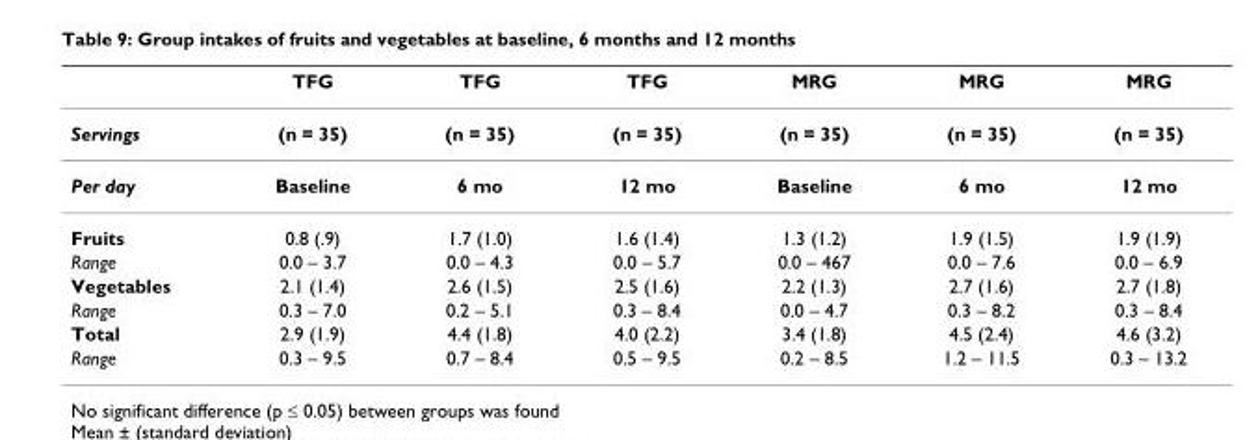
<table><thead><tr><td></td><td>TFG</td><td>TFG</td><td>TFG</td><td>MRG</td><td>MRG</td><td>MRG</td></tr></thead><tbody><tr><td>Servings</td><td>(n = 35)</td><td>(n = 35)</td><td>(n = 35)</td><td>(n = 35)</td><td>(n = 35)</td><td>(n = 35)</td></tr><tr><td>Per day</td><td>Baseline</td><td>6 mo</td><td>12 mo</td><td>Baseline</td><td>6 mo</td><td>12 mo</td></tr><tr><td>Fruits</td><td>0.8 (.9)</td><td>1.7 (1.0)</td><td>1.6 (1.4)</td><td>1.3 (1.2)</td><td>1.9 (1.5)</td><td>1.9 (1.9)</td></tr><tr><td>Range</td><td>0.0 – 3.7</td><td>0.0 – 4.3</td><td>0.0 – 5.7</td><td>0.0 – 467</td><td>0.0 – 7.6</td><td>0.0 – 6.9</td></tr><tr><td>Vegetables</td><td>2.1 (1.4)</td><td>2.6 (1.5)</td><td>2.5 (1.6)</td><td>2.2 (1.3)</td><td>2.7 (1.6)</td><td>2.7 (1.8)</td></tr><tr><td>Range</td><td>0.3 – 7.0</td><td>0.2 – 5.1</td><td>0.3 – 8.4</td><td>0.0 – 4.7</td><td>0.3 – 8.2</td><td>0.3 – 8.4</td></tr><tr><td>Total</td><td>2.9 (1.9)</td><td>4.4 (1.8)</td><td>4.0 (2.2)</td><td>3.4 (1.8)</td><td>4.5 (2.4)</td><td>4.6 (3.2)</td></tr><tr><td>Range</td><td>0.3 – 9.5</td><td>0.7 – 8.4</td><td>0.5 – 9.5</td><td>0.2 – 8.5</td><td>1.2 – 11.5</td><td>0.3 – 13.2</td></tr></tbody></table>